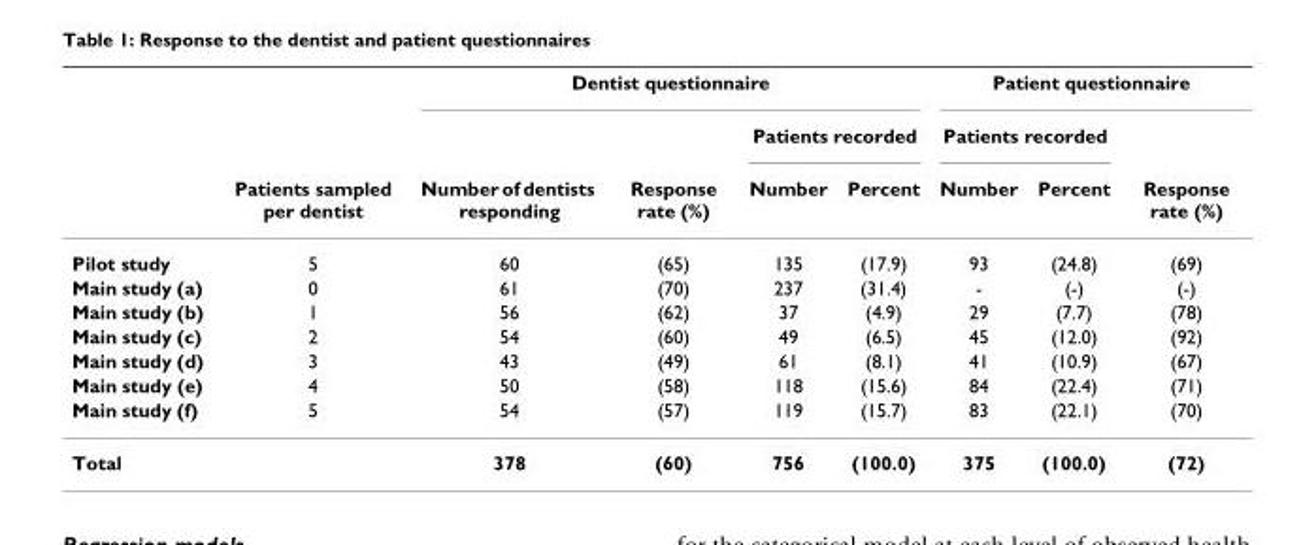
<table><thead><tr><td rowspan="3"></td><td rowspan="3">Patients sampled per dentist</td><td colspan="4">Dentist questionnaire</td><td colspan="3">Patient questionnaire</td></tr><tr><td rowspan="2">Number of dentists responding</td><td rowspan="2">Response rate (%)</td><td colspan="2">Patients recorded</td><td colspan="2">Patients recorded</td><td rowspan="2">Response rate (%)</td></tr><tr><td>Number</td><td>Percent</td><td>Number</td><td>Percent</td></tr></thead><tbody><tr><td>Pilot study</td><td>5</td><td>60</td><td>(65)</td><td>135</td><td>(17.9)</td><td>93</td><td>(24.8)</td><td>(69)</td></tr><tr><td>Main study (a)</td><td>0</td><td>61</td><td>(70)</td><td>237</td><td>(31.4)</td><td>-</td><td>(-)</td><td>(-)</td></tr><tr><td>Main study (b)</td><td>1</td><td>56</td><td>(62)</td><td>37</td><td>(4.9)</td><td>29</td><td>(7.7)</td><td>(78)</td></tr><tr><td>Main study (c)</td><td>2</td><td>54</td><td>(60)</td><td>49</td><td>(6.5)</td><td>45</td><td>(12.0)</td><td>(92)</td></tr><tr><td>Main study (d)</td><td>3</td><td>43</td><td>(49)</td><td>61</td><td>(8.1)</td><td>41</td><td>(10.9)</td><td>(67)</td></tr><tr><td>Main study (e)</td><td>4</td><td>50</td><td>(58)</td><td>118</td><td>(15.6)</td><td>84</td><td>(22.4)</td><td>(71)</td></tr><tr><td>Main study (f)</td><td>5</td><td>54</td><td>(57)</td><td>119</td><td>(15.7)</td><td>83</td><td>(22.1)</td><td>(70)</td></tr><tr><td>Total</td><td></td><td>378</td><td>(60)</td><td>756</td><td>(100.0)</td><td>375</td><td>(100.0)</td><td>(72)</td></tr></tbody></table>